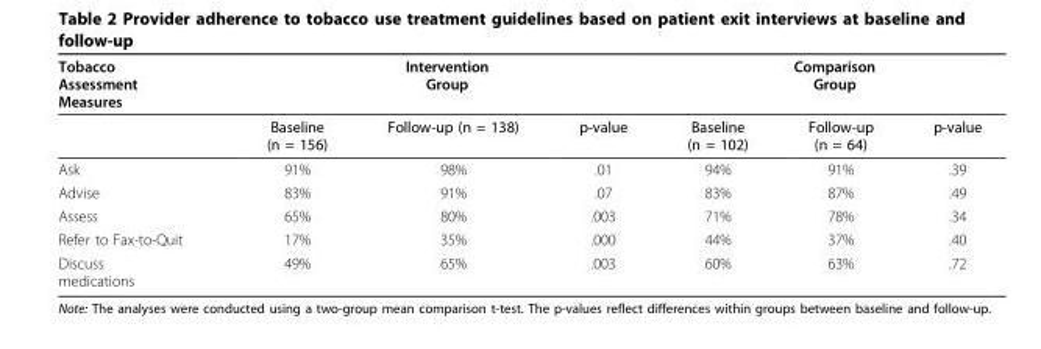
<table><thead><tr><td rowspan="2">Tobacco Assessment Measures</td><td colspan="3">Intervention Group</td><td colspan="3">Comparison Group</td></tr><tr><td>Baseline (n = 156)</td><td>Follow-up (n = 138)</td><td>p-value</td><td>Baseline (n = 102)</td><td>Follow-up (n = 64)</td><td>p-value</td></tr></thead><tbody><tr><td>Ask</td><td>91%</td><td>98%</td><td>.01</td><td>94%</td><td>91%</td><td>.39</td></tr><tr><td>Advise</td><td>83%</td><td>91%</td><td>.07</td><td>83%</td><td>87%</td><td>.49</td></tr><tr><td>Assess</td><td>65%</td><td>80%</td><td>.003</td><td>71%</td><td>78%</td><td>.34</td></tr><tr><td>Refer to Fax-to-Quit</td><td>17%</td><td>35%</td><td>.000</td><td>44%</td><td>37%</td><td>.40</td></tr><tr><td>Discuss medications</td><td>49%</td><td>65%</td><td>.003</td><td>60%</td><td>63%</td><td>.72</td></tr></tbody></table>